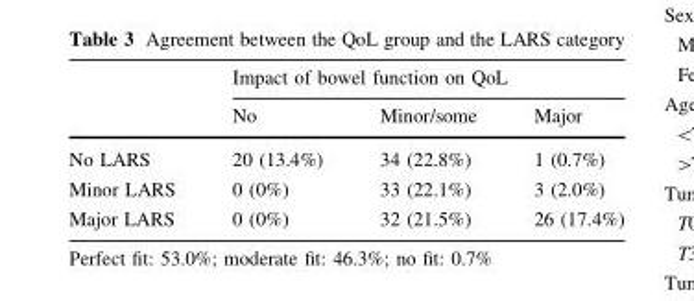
<table><thead><tr><td rowspan="2"></td><td colspan="3">Impact of bowel function on QoL</td></tr><tr><td>No</td><td>Minor/some</td><td>Major</td></tr></thead><tbody><tr><td>No LARS</td><td>20 (13.4%)</td><td>34 (22.8%)</td><td>1 (0.7%)</td></tr><tr><td>Minor LARS</td><td>0 (0%)</td><td>33 (22.1%)</td><td>3 (2.0%)</td></tr><tr><td>Major LARS</td><td>0 (0%)</td><td>32 (21.5%)</td><td>26 (17.4%)</td></tr></tbody></table>